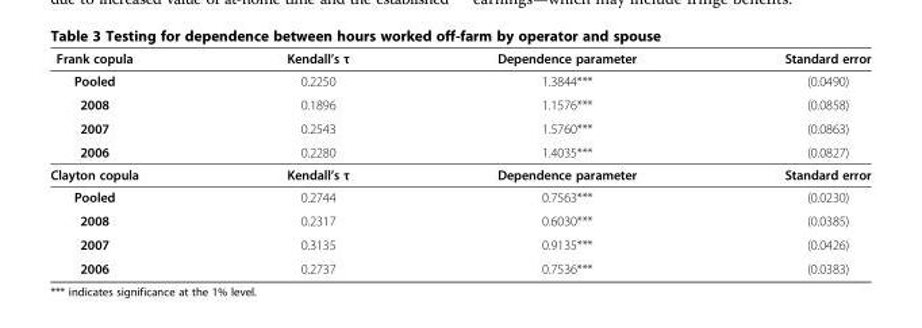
<table><thead><tr><td>Frank copula</td><td>Kendall’s τ</td><td>Dependence parameter</td><td>Standard error</td></tr></thead><tbody><tr><td>Pooled</td><td>0.2250</td><td>1.3844***</td><td>(0.0490)</td></tr><tr><td>2008</td><td>0.1896</td><td>1.1576***</td><td>(0.0858)</td></tr><tr><td>2007</td><td>0.2543</td><td>1.5760***</td><td>(0.0863)</td></tr><tr><td>2006</td><td>0.2280</td><td>1.4035***</td><td>(0.0827)</td></tr><tr><td>Clayton copula</td><td>Kendall’s τ</td><td>Dependence parameter</td><td>Standard error</td></tr><tr><td>Pooled</td><td>0.2744</td><td>0.7563***</td><td>(0.0230)</td></tr><tr><td>2008</td><td>0.2317</td><td>0.6030***</td><td>(0.0385)</td></tr><tr><td>2007</td><td>0.3135</td><td>0.9135***</td><td>(0.0426)</td></tr><tr><td>2006</td><td>0.2737</td><td>0.7536***</td><td>(0.0383)</td></tr></tbody></table>